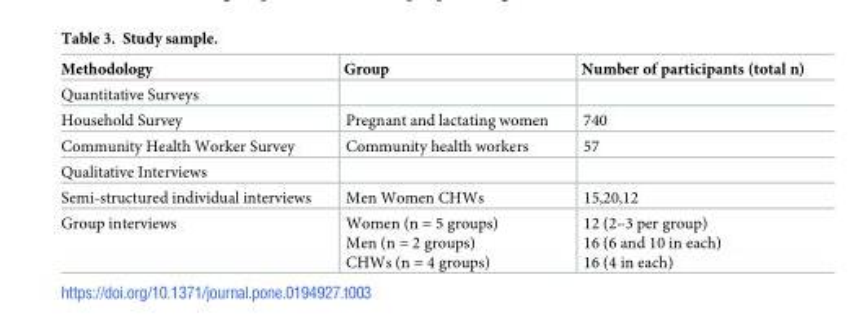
<table><thead><tr><td>Methodology</td><td>Group</td><td>Number of participants (total n)</td></tr></thead><tbody><tr><td colspan="3">Quantitative Surveys</td></tr><tr><td>Household Survey</td><td>Pregnant and lactating women</td><td>740</td></tr><tr><td>Community Health Worker Survey</td><td>Community health workers</td><td>57</td></tr><tr><td colspan="3">Qualitative Interviews</td></tr><tr><td>Semi-structured individual interviews</td><td>Men Women CHWs</td><td>15,20,12</td></tr><tr><td>Group interviews</td><td>Women (n = 5 groups) Men (n = 2 groups) CHWs (n = 4 groups)</td><td>12 (2–3 per group) 16 (6 and 10 in each) 16 (4 in each)</td></tr></tbody></table>